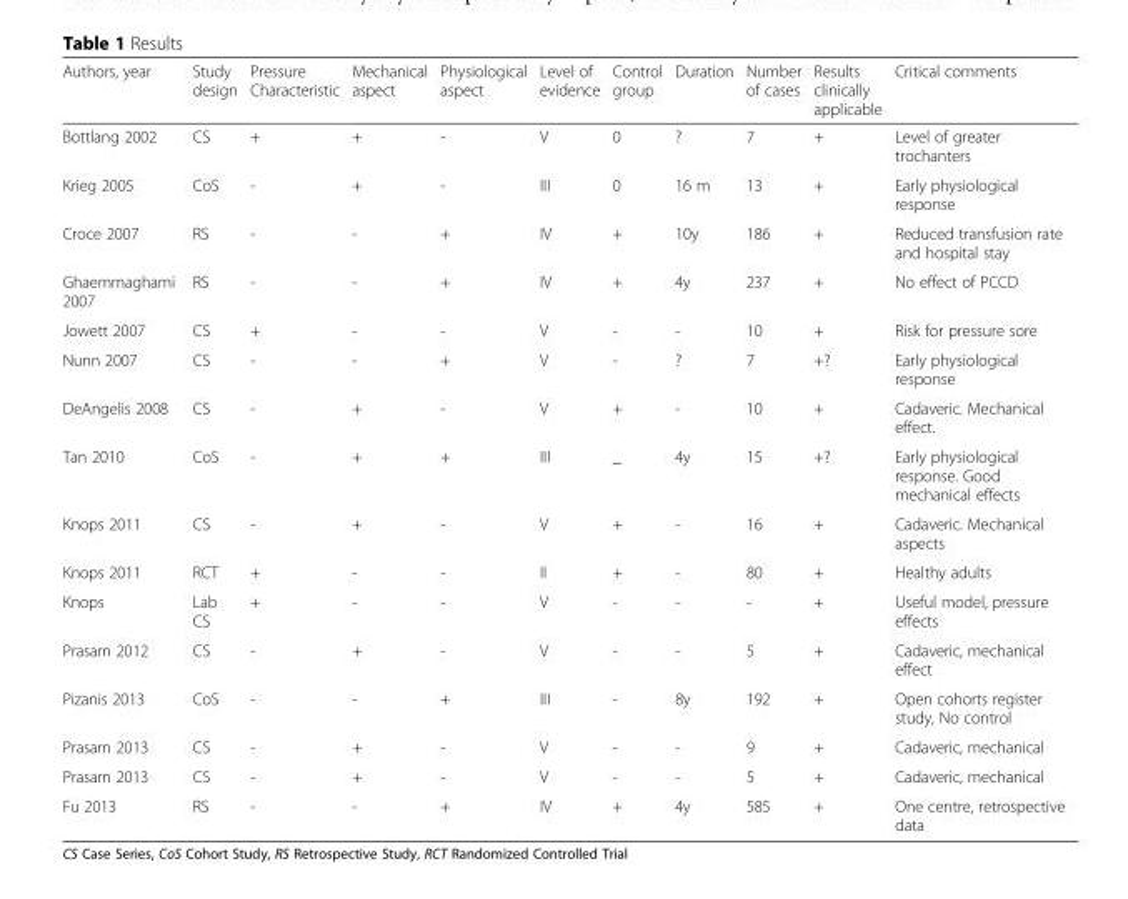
<table><thead><tr><td>Authors, year</td><td>Study design</td><td>Pressure Characteristic</td><td>Mechanical aspect</td><td>Physiological aspect</td><td>Level of evidence</td><td>Control group</td><td>Duration</td><td>Number of cases</td><td>Results clinically applicable</td><td>Critical comments</td></tr></thead><tbody><tr><td>Bottlang 2002</td><td>CS</td><td>+</td><td>+</td><td>-</td><td>V</td><td>0</td><td>?</td><td>7</td><td>+</td><td>Level of greater trochanters</td></tr><tr><td>Krieg 2005</td><td>CoS</td><td>-</td><td>+</td><td>-</td><td>III</td><td>0</td><td>16 m</td><td>13</td><td>+</td><td>Early physiological response</td></tr><tr><td>Croce 2007</td><td>RS</td><td>-</td><td>-</td><td>+</td><td>IV</td><td>+</td><td>10y</td><td>186</td><td>+</td><td>Reduced transfusion rate and hospital stay</td></tr><tr><td>Ghaemmaghami 2007</td><td>RS</td><td>-</td><td>-</td><td>+</td><td>IV</td><td>+</td><td>4y</td><td>237</td><td>+</td><td>No effect of PCCD</td></tr><tr><td>Jowett 2007</td><td>CS</td><td>+</td><td>-</td><td>-</td><td>V</td><td>-</td><td>-</td><td>10</td><td>+</td><td>Risk for pressure sore</td></tr><tr><td>Nunn 2007</td><td>CS</td><td>-</td><td>-</td><td>+</td><td>V</td><td>-</td><td>?</td><td>7</td><td>+?</td><td>Early physiological response</td></tr><tr><td>DeAngelis 2008</td><td>CS</td><td>-</td><td>+</td><td>-</td><td>V</td><td>+</td><td>-</td><td>10</td><td>+</td><td>Cadaveric. Mechanical effect.</td></tr><tr><td>Tan 2010</td><td>CoS</td><td>-</td><td>+</td><td>+</td><td>III</td><td>_</td><td>4y</td><td>15</td><td>+?</td><td>Early physiological response. Good mechanical effects</td></tr><tr><td>Knops 2011</td><td>CS</td><td>-</td><td>+</td><td>-</td><td>V</td><td>+</td><td>-</td><td>16</td><td>+</td><td>Cadaveric. Mechanical aspects</td></tr><tr><td>Knops 2011</td><td>RCT</td><td>+</td><td>-</td><td>-</td><td>II</td><td>+</td><td>-</td><td>80</td><td>+</td><td>Healthy adults</td></tr><tr><td>Knops</td><td>Lab CS</td><td>+</td><td>-</td><td>-</td><td>V</td><td>-</td><td>-</td><td>-</td><td>+</td><td>Useful model, pressure effects</td></tr><tr><td>Prasarn 2012</td><td>CS</td><td>-</td><td>+</td><td>-</td><td>V</td><td>-</td><td>-</td><td>5</td><td>+</td><td>Cadaveric, mechanical effect</td></tr><tr><td>Pizanis 2013</td><td>CoS</td><td>-</td><td>-</td><td>+</td><td>III</td><td>-</td><td>8y</td><td>192</td><td>+</td><td>Open cohorts register study, No control</td></tr><tr><td>Prasarn 2013</td><td>CS</td><td>-</td><td>+</td><td>-</td><td>V</td><td>-</td><td>-</td><td>9</td><td>+</td><td>Cadaveric, mechanical</td></tr><tr><td>Prasarn 2013</td><td>CS</td><td>-</td><td>+</td><td>-</td><td>V</td><td>-</td><td>-</td><td>5</td><td>+</td><td>Cadaveric, mechanical</td></tr><tr><td>Fu 2013</td><td>RS</td><td>-</td><td>-</td><td>+</td><td>IV</td><td>+</td><td>4y</td><td>585</td><td>+</td><td>One centre, retrospective data</td></tr></tbody></table>